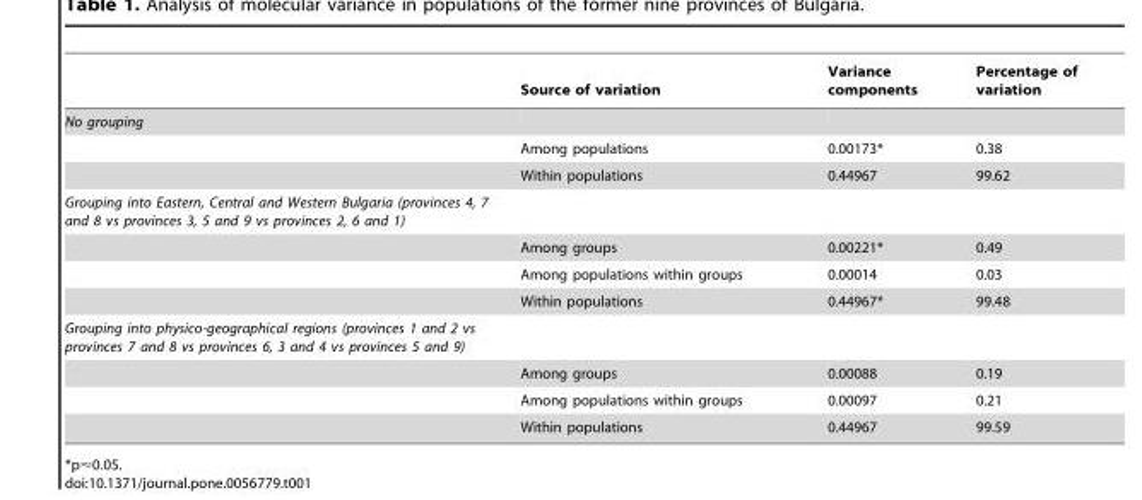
<table><thead><tr><td></td><td>Source of variation</td><td>Variance components</td><td>Percentage of variation</td></tr></thead><tbody><tr><td colspan="4">No grouping</td></tr><tr><td></td><td>Among populations</td><td>0.00173*</td><td>0.38</td></tr><tr><td></td><td>Within populations</td><td>0.44967</td><td>99.62</td></tr><tr><td colspan="4">Grouping into Eastern, Central and Western Bulgaria (provinces 4, 7 and 8 vs provinces 3, 5 and 9 vs provinces 2, 6 and 1)</td></tr><tr><td></td><td>Among groups</td><td>0.00221*</td><td>0.49</td></tr><tr><td></td><td>Among populations within groups</td><td>0.00014</td><td>0.03</td></tr><tr><td></td><td>Within populations</td><td>0.44967*</td><td>99.48</td></tr><tr><td colspan="4">Grouping into physico-geographical regions (provinces 1 and 2 vs provinces 7 and 8 vs provinces 6, 3 and 4 vs provinces 5 and 9)</td></tr><tr><td></td><td>Among groups</td><td>0.00088</td><td>0.19</td></tr><tr><td></td><td>Among populations within groups</td><td>0.00097</td><td>0.21</td></tr><tr><td></td><td>Within populations</td><td>0.44967</td><td>99.59</td></tr></tbody></table>